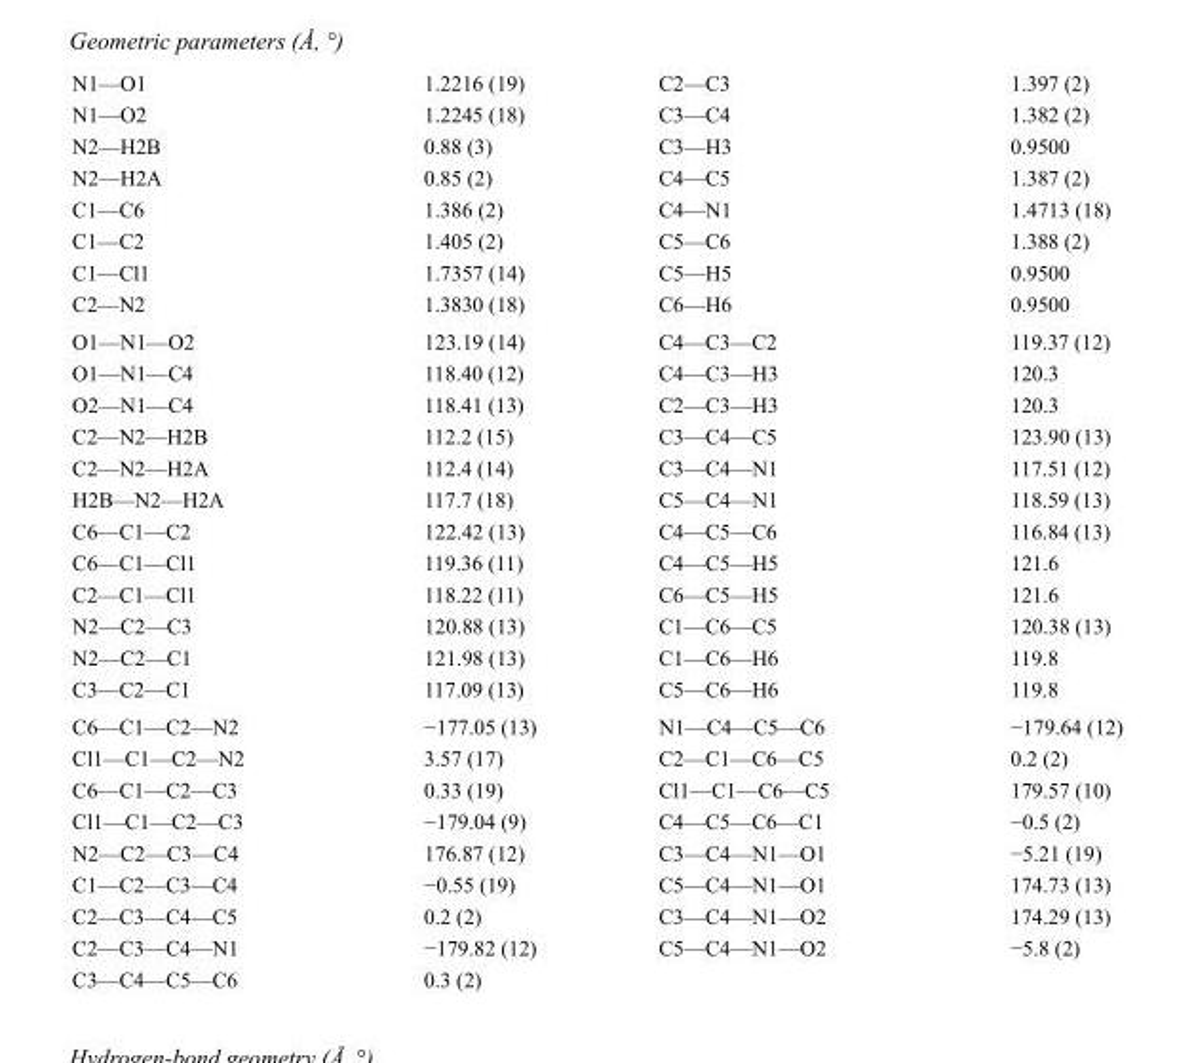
<table><tbody><tr><td>N1—O1</td><td>1.2216 (19)</td><td>C2—C3</td><td>1.397 (2)</td></tr><tr><td>N1—O2</td><td>1.2245 (18)</td><td>C3—C4</td><td>1.382 (2)</td></tr><tr><td>N2—H2B</td><td>0.88 (3)</td><td>C3—H3</td><td>0.9500</td></tr><tr><td>N2—H2A</td><td>0.85 (2)</td><td>C4—C5</td><td>1.387 (2)</td></tr><tr><td>C1—C6</td><td>1.386 (2)</td><td>C4—N1</td><td>1.4713 (18)</td></tr><tr><td>C1—C2</td><td>1.405 (2)</td><td>C5—C6</td><td>1.388 (2)</td></tr><tr><td>C1—Cl1</td><td>1.7357 (14)</td><td>C5—H5</td><td>0.9500</td></tr><tr><td>C2—N2</td><td>1.3830 (18)</td><td>C6—H6</td><td>0.9500</td></tr><tr><td>O1—N1—O2</td><td>123.19 (14)</td><td>C4—C3—C2</td><td>119.37 (12)</td></tr><tr><td>O1—N1—C4</td><td>118.40 (12)</td><td>C4—C3—H3</td><td>120.3</td></tr><tr><td>O2—N1—C4</td><td>118.41 (13)</td><td>C2—C3—H3</td><td>120.3</td></tr><tr><td>C2—N2—H2B</td><td>112.2 (15)</td><td>C3—C4—C5</td><td>123.90 (13)</td></tr><tr><td>C2—N2—H2A</td><td>112.4 (14)</td><td>C3—C4—N1</td><td>117.51 (12)</td></tr><tr><td>H2B—N2—H2A</td><td>117.7 (18)</td><td>C5—C4—N1</td><td>118.59 (13)</td></tr><tr><td>C6—C1—C2</td><td>122.42 (13)</td><td>C4—C5—C6</td><td>116.84 (13)</td></tr><tr><td>C6—C1—Cl1</td><td>119.36 (11)</td><td>C4—C5—H5</td><td>121.6</td></tr><tr><td>C2—C1—Cl1</td><td>118.22 (11)</td><td>C6—C5—H5</td><td>121.6</td></tr><tr><td>N2—C2—C3</td><td>120.88 (13)</td><td>C1—C6—C5</td><td>120.38 (13)</td></tr><tr><td>N2—C2—C1</td><td>121.98 (13)</td><td>C1—C6—H6</td><td>119.8</td></tr><tr><td>C3—C2—C1</td><td>117.09 (13)</td><td>C5—C6—H6</td><td>119.8</td></tr><tr><td>C6—C1—C2—N2</td><td>−177.05 (13)</td><td>N1—C4—C5—C6</td><td>−179.64 (12)</td></tr><tr><td>Cl1—C1—C2—N2</td><td>3.57 (17)</td><td>C2—C1—C6—C5</td><td>0.2 (2)</td></tr><tr><td>C6—C1—C2—C3</td><td>0.33 (19)</td><td>Cl1—C1—C6—C5</td><td>179.57 (10)</td></tr><tr><td>Cl1—C1—C2—C3</td><td>−179.04 (9)</td><td>C4—C5—C6—C1</td><td>−0.5 (2)</td></tr><tr><td>N2—C2—C3—C4</td><td>176.87 (12)</td><td>C3—C4—N1—O1</td><td>−5.21 (19)</td></tr><tr><td>C1—C2—C3—C4</td><td>−0.55 (19)</td><td>C5—C4—N1—O1</td><td>174.73 (13)</td></tr><tr><td>C2—C3—C4—C5</td><td>0.2 (2)</td><td>C3—C4—N1—O2</td><td>174.29 (13)</td></tr><tr><td>C2—C3—C4—N1</td><td>−179.82 (12)</td><td>C5—C4—N1—O2</td><td>−5.8 (2)</td></tr><tr><td>C3—C4—C5—C6</td><td>0.3 (2)</td><td></td><td></td></tr></tbody></table>